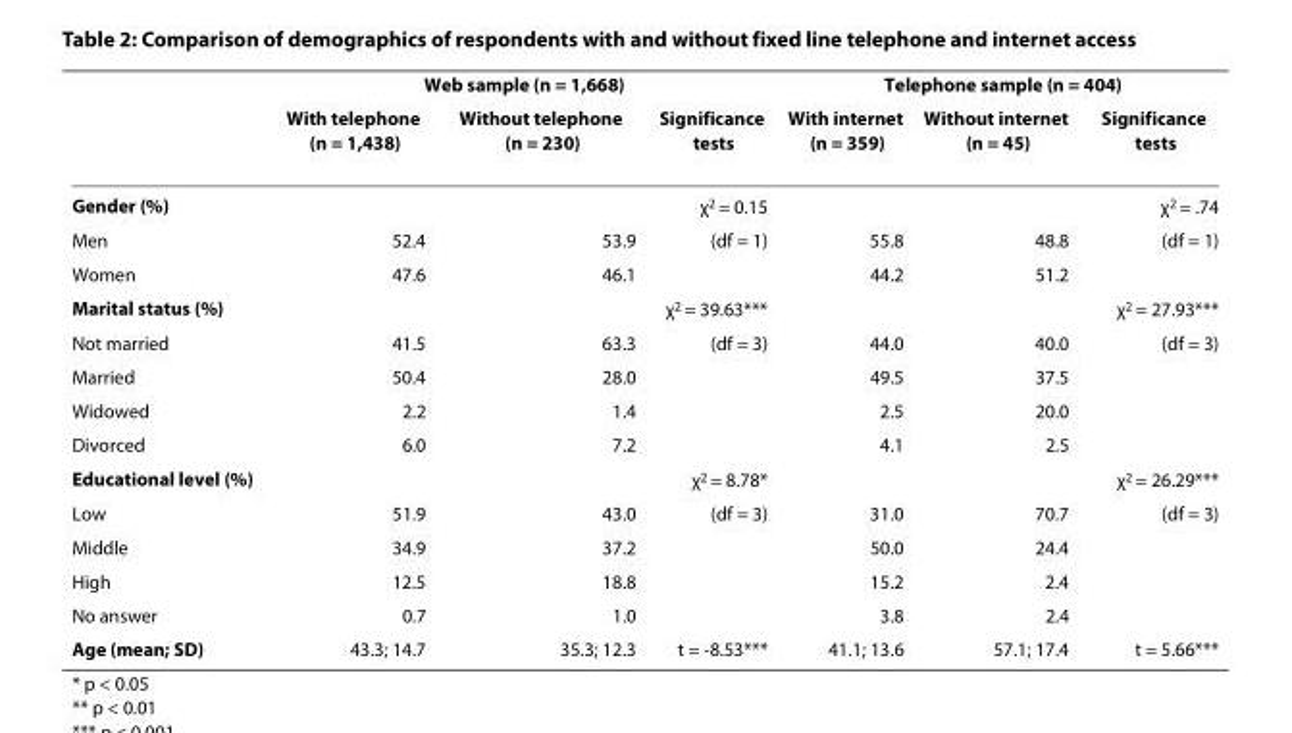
<table><thead><tr><td rowspan="2"></td><td colspan="3">Web sample (n = 1,668)</td><td colspan="3">Telephone sample (n = 404)</td></tr><tr><td>With telephone (n = 1,438)</td><td>Without telephone (n = 230)</td><td>Significance tests</td><td>With internet (n = 359)</td><td>Without internet (n = 45)</td><td>Significance tests</td></tr></thead><tbody><tr><td>Gender (%)</td><td></td><td></td><td>χ<sup>2</sup> = 0.15</td><td></td><td></td><td>χ<sup>2</sup> = .74</td></tr><tr><td>Men</td><td>52.4</td><td>53.9</td><td>(df = 1)</td><td>55.8</td><td>48.8</td><td>(df = 1)</td></tr><tr><td>Women</td><td>47.6</td><td>46.1</td><td></td><td>44.2</td><td>51.2</td><td></td></tr><tr><td>Marital status (%)</td><td></td><td></td><td>χ<sup>2</sup> = 39.63***</td><td></td><td></td><td>χ<sup>2</sup> = 27.93***</td></tr><tr><td>Not married</td><td>41.5</td><td>63.3</td><td>(df = 3)</td><td>44.0</td><td>40.0</td><td>(df = 3)</td></tr><tr><td>Married</td><td>50.4</td><td>28.0</td><td></td><td>49.5</td><td>37.5</td><td></td></tr><tr><td>Widowed</td><td>2.2</td><td>1.4</td><td></td><td>2.5</td><td>20.0</td><td></td></tr><tr><td>Divorced</td><td>6.0</td><td>7.2</td><td></td><td>4.1</td><td>2.5</td><td></td></tr><tr><td>Educational level (%)</td><td></td><td></td><td>χ<sup>2</sup> = 8.78*</td><td></td><td></td><td>χ<sup>2</sup> = 26.29***</td></tr><tr><td>Low</td><td>51.9</td><td>43.0</td><td>(df = 3)</td><td>31.0</td><td>70.7</td><td>(df = 3)</td></tr><tr><td>Middle</td><td>34.9</td><td>37.2</td><td></td><td>50.0</td><td>24.4</td><td></td></tr><tr><td>High</td><td>12.5</td><td>18.8</td><td></td><td>15.2</td><td>2.4</td><td></td></tr><tr><td>No answer</td><td>0.7</td><td>1.0</td><td></td><td>3.8</td><td>2.4</td><td></td></tr><tr><td>Age (mean; SD)</td><td>43.3; 14.7</td><td>35.3; 12.3</td><td>t = -8.53***</td><td>41.1; 13.6</td><td>57.1; 17.4</td><td>t = 5.66***</td></tr></tbody></table>